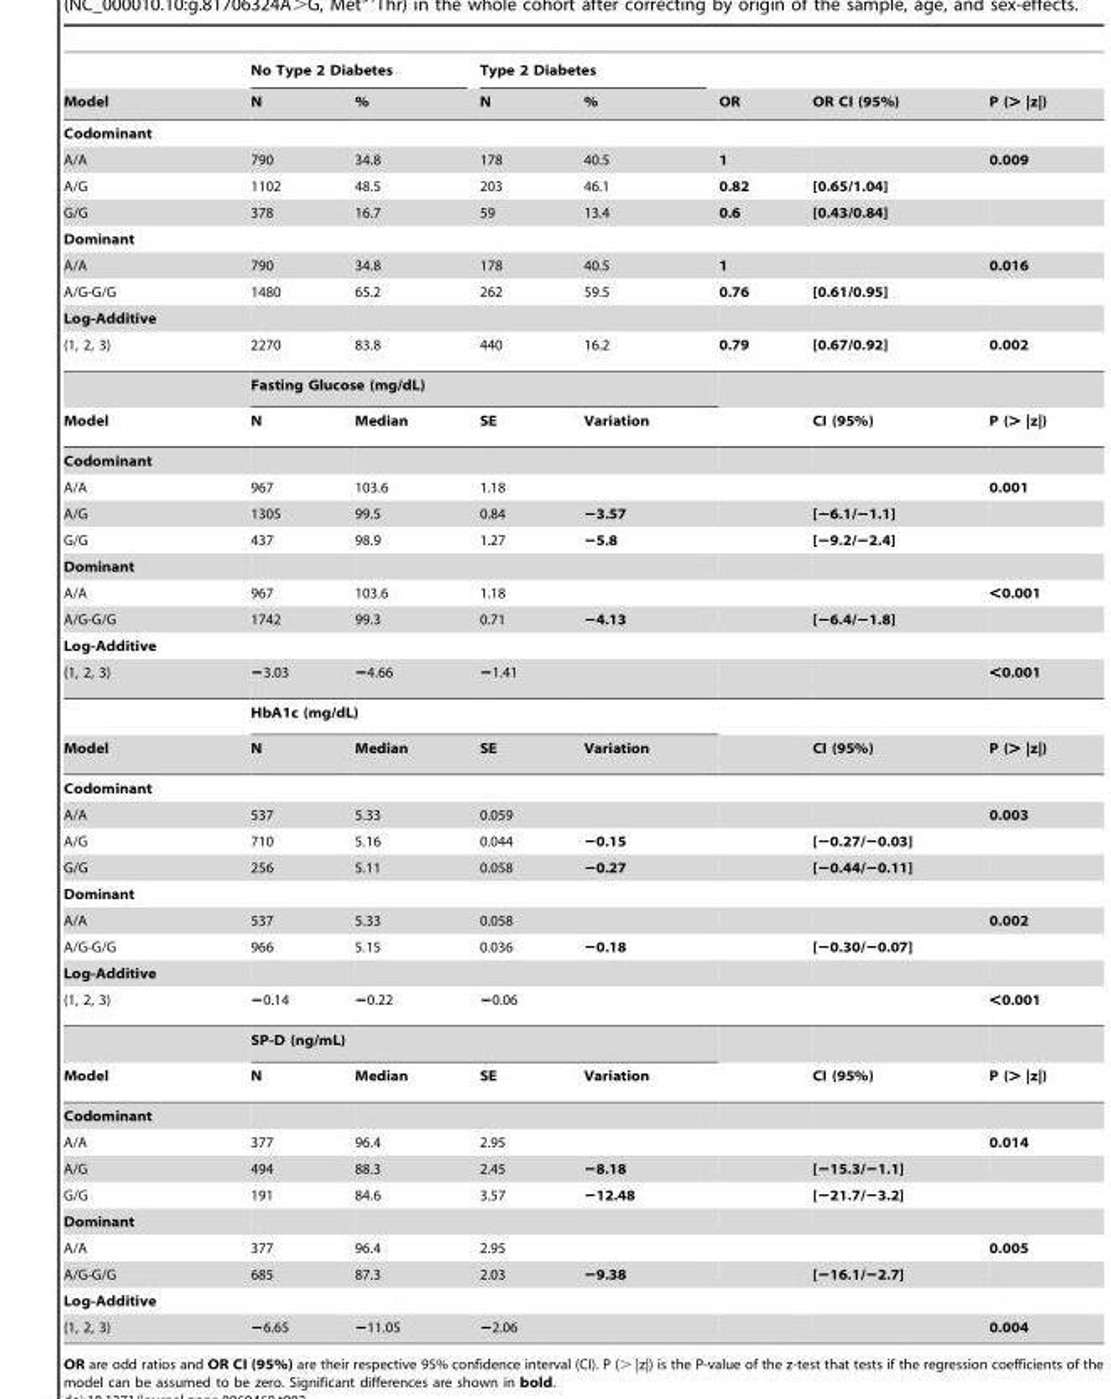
<table><thead><tr><td rowspan="2">Model</td><td colspan="2">No Type 2 Diabetes</td><td colspan="2">Type 2 Diabetes</td><td rowspan="2">OR</td><td rowspan="2">OR CI (95%)</td><td rowspan="2">P (&gt; |z|)</td></tr><tr><td>N</td><td>%</td><td>N</td><td>%</td></tr></thead><tbody><tr><td colspan="8">Codominant</td></tr><tr><td>A/A</td><td>790</td><td>34.8</td><td>178</td><td>40.5</td><td>1</td><td></td><td>0.009</td></tr><tr><td>A/G</td><td>1102</td><td>48.5</td><td>203</td><td>46.1</td><td>0.82</td><td>[0.65/1.04]</td><td></td></tr><tr><td>G/G</td><td>378</td><td>16.7</td><td>59</td><td>13.4</td><td>0.6</td><td>[0.43/0.84]</td><td></td></tr><tr><td colspan="8">Dominant</td></tr><tr><td>A/A</td><td>790</td><td>34.8</td><td>178</td><td>40.5</td><td>1</td><td></td><td>0.016</td></tr><tr><td>A/G-G/G</td><td>1480</td><td>65.2</td><td>262</td><td>59.5</td><td>0.76</td><td>[0.61/0.95]</td><td></td></tr><tr><td colspan="8">Log-Additive</td></tr><tr><td rowspan="2">(1, 2, 3)</td><td>2270</td><td>83.8</td><td>440</td><td>16.2</td><td>0.79</td><td>[0.67/0.92]</td><td>0.002</td></tr><tr><td colspan="4">Fasting Glucose (mg/dL)</td><td colspan="3"></td></tr><tr><td>Model</td><td>N</td><td>Median</td><td>SE</td><td>Variation</td><td></td><td>CI (95%)</td><td>P (&gt; |z|)</td></tr><tr><td colspan="8">Codominant</td></tr><tr><td>A/A</td><td>967</td><td>103.6</td><td>1.18</td><td></td><td></td><td></td><td>0.001</td></tr><tr><td>A/G</td><td>1305</td><td>99.5</td><td>0.84</td><td>−3.57</td><td></td><td>[−6.1/−1.1]</td><td></td></tr><tr><td>G/G</td><td>437</td><td>98.9</td><td>1.27</td><td>−5.8</td><td></td><td>[−9.2/−2.4]</td><td></td></tr><tr><td colspan="8">Dominant</td></tr><tr><td>A/A</td><td>967</td><td>103.6</td><td>1.18</td><td></td><td></td><td></td><td>&lt;0.001</td></tr><tr><td>A/G-G/G</td><td>1742</td><td>99.3</td><td>0.71</td><td>−4.13</td><td></td><td>[−6.4/−1.8]</td><td></td></tr><tr><td colspan="8">Log-Additive</td></tr><tr><td rowspan="2">(1, 2, 3)</td><td>−3.03</td><td>−4.66</td><td>−1.41</td><td></td><td></td><td></td><td>&lt;0.001</td></tr><tr><td colspan="4">HbA1c (mg/dL)</td><td></td><td></td><td></td></tr><tr><td>Model</td><td>N</td><td>Median</td><td>SE</td><td>Variation</td><td></td><td>CI (95%)</td><td>P (&gt; |z|)</td></tr><tr><td colspan="8">Codominant</td></tr><tr><td>A/A</td><td>537</td><td>5.33</td><td>0.059</td><td></td><td></td><td></td><td>0.003</td></tr><tr><td>A/G</td><td>710</td><td>5.16</td><td>0.044</td><td>−0.15</td><td></td><td>[−0.27/−0.03]</td><td></td></tr><tr><td>G/G</td><td>256</td><td>5.11</td><td>0.058</td><td>−0.27</td><td></td><td>[−0.44/−0.11]</td><td></td></tr><tr><td colspan="8">Dominant</td></tr><tr><td>A/A</td><td>537</td><td>5.33</td><td>0.058</td><td></td><td></td><td></td><td>0.002</td></tr><tr><td>A/G-G/G</td><td>966</td><td>5.15</td><td>0.036</td><td>−0.18</td><td></td><td>[−0.30/−0.07]</td><td></td></tr><tr><td colspan="8">Log-Additive</td></tr><tr><td rowspan="2">(1, 2, 3)</td><td>−0.14</td><td>−0.22</td><td>−0.06</td><td></td><td></td><td></td><td>&lt;0.001</td></tr><tr><td colspan="4">SP-D (ng/mL)</td><td></td><td></td><td></td></tr><tr><td>Model</td><td>N</td><td>Median</td><td>SE</td><td>Variation</td><td></td><td>CI (95%)</td><td>P (&gt; |z|)</td></tr><tr><td colspan="8">Codominant</td></tr><tr><td>A/A</td><td>377</td><td>96.4</td><td>2.95</td><td></td><td></td><td></td><td>0.014</td></tr><tr><td>A/G</td><td>494</td><td>88.3</td><td>2.45</td><td>−8.18</td><td></td><td>[−15.3/−1.1]</td><td></td></tr><tr><td>G/G</td><td>191</td><td>84.6</td><td>3.57</td><td>−12.48</td><td></td><td>[−21.7/−3.2]</td><td></td></tr><tr><td colspan="8">Dominant</td></tr><tr><td>A/A</td><td>377</td><td>96.4</td><td>2.95</td><td></td><td></td><td></td><td>0.005</td></tr><tr><td>A/G-G/G</td><td>685</td><td>87.3</td><td>2.03</td><td>−9.38</td><td></td><td>[−16.1/−2.7]</td><td></td></tr><tr><td colspan="8">Log-Additive</td></tr><tr><td>(1, 2, 3)</td><td>−6.65</td><td>−11.05</td><td>−2.06</td><td></td><td></td><td></td><td>0.004</td></tr></tbody></table>